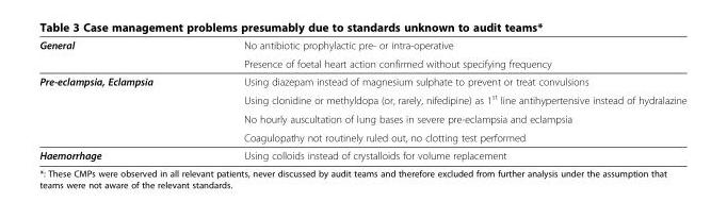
<table><tbody><tr><td rowspan="2">General</td><td>No antibiotic prophylactic pre- or intra-operative</td></tr><tr><td>Presence of foetal heart action confirmed without specifying frequency</td></tr><tr><td rowspan="4">Pre-eclampsia, Eclampsia</td><td>Using diazepam instead of magnesium sulphate to prevent or treat convulsions</td></tr><tr><td>Using clonidine or methyldopa (or, rarely, nifedipine) as 1<sup>st</sup> line antihypertensive instead of hydralazine</td></tr><tr><td>No hourly auscultation of lung bases in severe pre-eclampsia and eclampsia</td></tr><tr><td>Coagulopathy not routinely ruled out, no clotting test performed</td></tr><tr><td>Haemorrhage</td><td>Using colloids instead of crystalloids for volume replacement</td></tr></tbody></table>